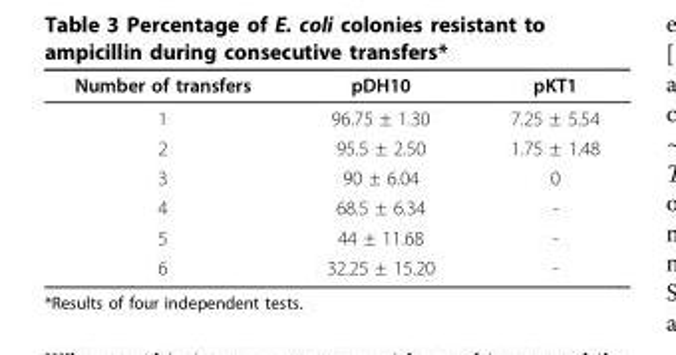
<table><thead><tr><td>Number of transfers</td><td>pDH10</td><td>pKT1</td></tr></thead><tbody><tr><td>1</td><td>96.75 ± 1.30</td><td>7.25 ± 5.54</td></tr><tr><td>2</td><td>95.5 ± 2.50</td><td>1.75 ± 1.48</td></tr><tr><td>3</td><td>90 ± 6.04</td><td>0</td></tr><tr><td>4</td><td>68.5 ± 6.34</td><td>-</td></tr><tr><td>5</td><td>44 ± 11.68</td><td>-</td></tr><tr><td>6</td><td>32.25 ± 15.20</td><td>-</td></tr></tbody></table>